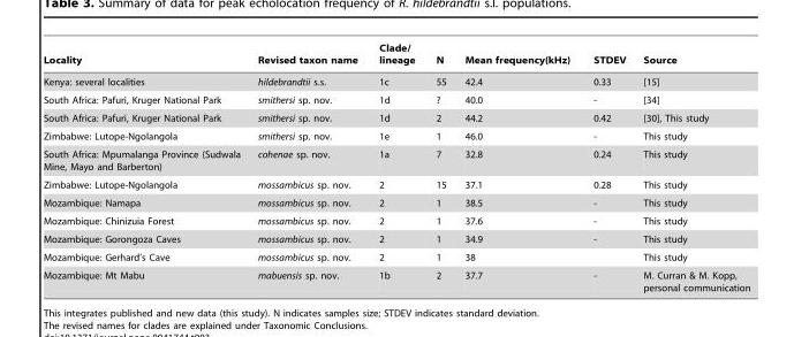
<table><thead><tr><td>Locality</td><td>Revised taxon name</td><td>Clade/ lineage</td><td>N</td><td>Mean frequency(kHz)</td><td>STDEV</td><td>Source</td></tr></thead><tbody><tr><td>Kenya: several localities</td><td>hildebrandtii s.s.</td><td>1c</td><td>55</td><td>42.4</td><td>0.33</td><td>[15]</td></tr><tr><td>South Africa: Pafuri, Kruger National Park</td><td>smithersi sp. nov.</td><td>1d</td><td>?</td><td>40.0</td><td>-</td><td>[34]</td></tr><tr><td>South Africa: Pafuri, Kruger National Park</td><td>smithersi sp. nov.</td><td>1d</td><td>2</td><td>44.2</td><td>0.42</td><td>[30], This study</td></tr><tr><td>Zimbabwe: Lutope-Ngolangola</td><td>smithersi sp. nov.</td><td>1e</td><td>1</td><td>46.0</td><td>-</td><td>This study</td></tr><tr><td>South Africa: Mpumalanga Province (Sudwala Mine, Mayo and Barberton)</td><td>cohenae sp. nov.</td><td>1a</td><td>7</td><td>32.8</td><td>0.24</td><td>This study</td></tr><tr><td>Zimbabwe: Lutope-Ngolangola</td><td>mossambicus sp. nov.</td><td>2</td><td>15</td><td>37.1</td><td>0.28</td><td>This study</td></tr><tr><td>Mozambique: Namapa</td><td>mossambicus sp. nov.</td><td>2</td><td>1</td><td>38.5</td><td>-</td><td>This study</td></tr><tr><td>Mozambique: Chinizuia Forest</td><td>mossambicus sp. nov.</td><td>2</td><td>1</td><td>37.6</td><td>-</td><td>This study</td></tr><tr><td>Mozambique: Gorongoza Caves</td><td>mossambicus sp. nov.</td><td>2</td><td>1</td><td>34.9</td><td>-</td><td>This study</td></tr><tr><td>Mozambique: Gerhard’s Cave</td><td>mossambicus sp. nov.</td><td>2</td><td>1</td><td>38</td><td></td><td>This study</td></tr><tr><td>Mozambique: Mt Mabu</td><td>mabuensis sp. nov.</td><td>1b</td><td>2</td><td>37.7</td><td>-</td><td>M. Curran &amp; M. Kopp, personal communication</td></tr></tbody></table>